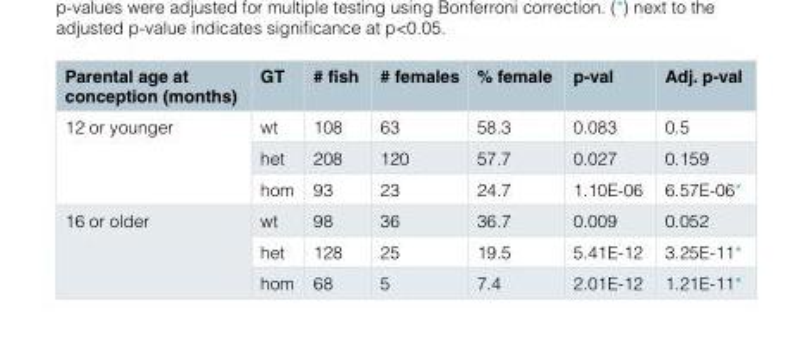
<table><thead><tr><td>Parental age at conception (months)</td><td>GT</td><td># fish</td><td># females</td><td>% female</td><td>p-val</td><td>Adj. p-val</td></tr></thead><tbody><tr><td rowspan="3">12 or younger</td><td>wt</td><td>108</td><td>63</td><td>58.3</td><td>0.083</td><td>0.5</td></tr><tr><td>het</td><td>208</td><td>120</td><td>57.7</td><td>0.027</td><td>0.159</td></tr><tr><td>hom</td><td>93</td><td>23</td><td>24.7</td><td>1.10E-06</td><td>6.57E-06*</td></tr><tr><td rowspan="3">16 or older</td><td>wt</td><td>98</td><td>36</td><td>36.7</td><td>0.009</td><td>0.052</td></tr><tr><td>het</td><td>128</td><td>25</td><td>19.5</td><td>5.41E-12</td><td>3.25E-11*</td></tr><tr><td>hom</td><td>68</td><td>5</td><td>7.4</td><td>2.01E-12</td><td>1.21E-11*</td></tr></tbody></table>